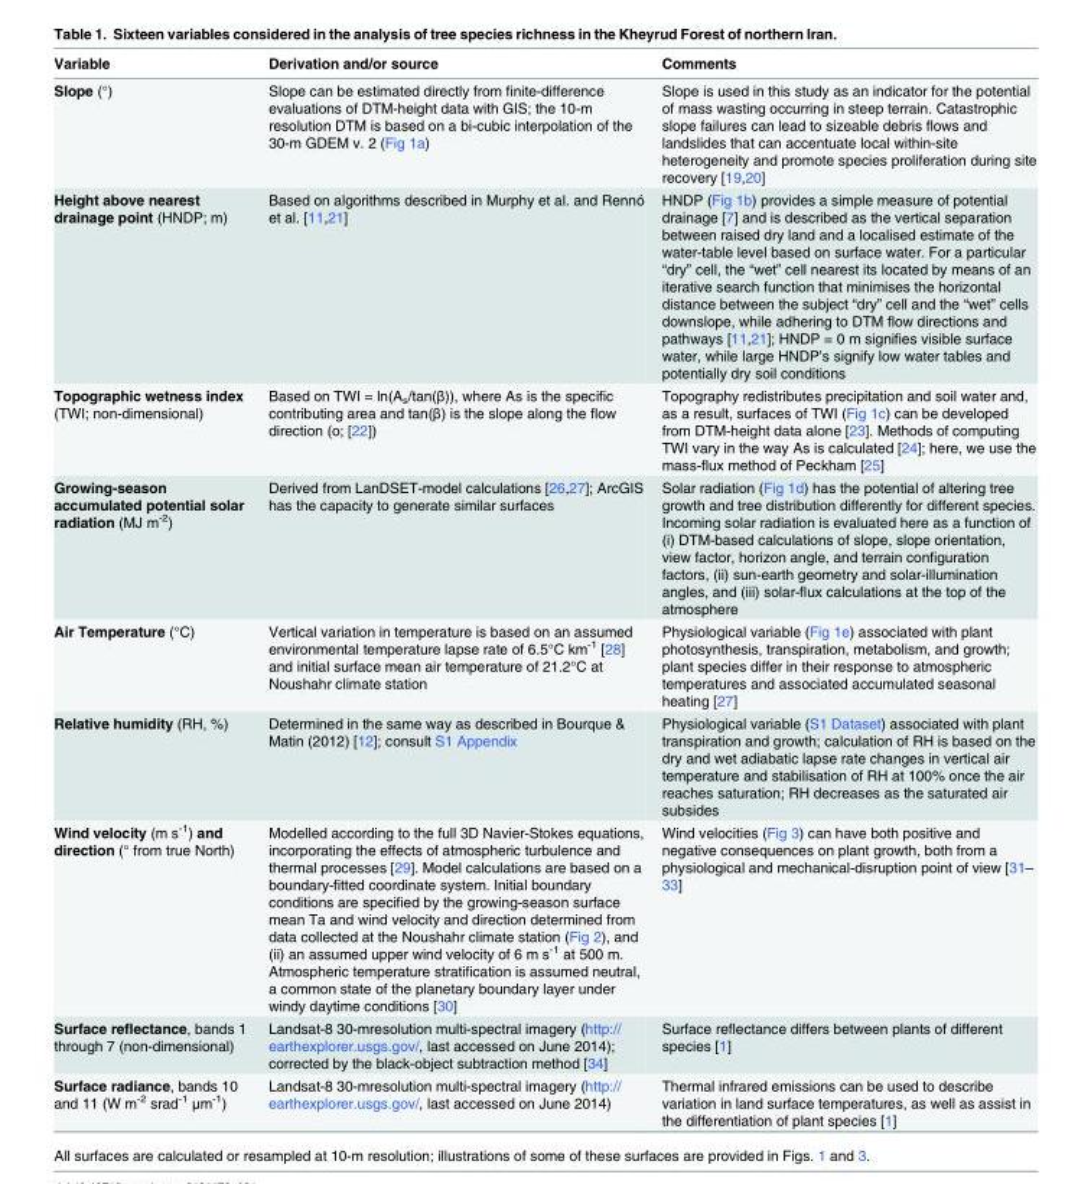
<table><thead><tr><td>Variable</td><td>Derivation and/or source</td><td>Comments</td></tr></thead><tbody><tr><td>Slope (°)</td><td>Slope can be estimated directly from finite-difference evaluations of DTM-height data with GIS; the 10-m resolution DTM is based on a bi-cubic interpolation of the 30-m GDEM v. 2 (Fig 1a)</td><td>Slope is used in this study as an indicator for the potential of mass wasting occurring in steep terrain. Catastrophic slope failures can lead to sizeable debris flows and landslides that can accentuate local within-site heterogeneity and promote species proliferation during site recovery [19,20]</td></tr><tr><td>Height above nearest drainage point (HNDP; m)</td><td>Based on algorithms described in Murphy et al. and Rennó et al. [11,21]</td><td>HNDP (Fig 1b) provides a simple measure of potential drainage [7] and is described as the vertical separation between raised dry land and a localised estimate of the water-table level based on surface water. For a particular “dry” cell, the “wet” cell nearest its located by means of an iterative search function that minimises the horizontal distance between the subject “dry” cell and the “wet” cells downslope, while adhering to DTM flow directions and pathways [11,21]; HNDP = 0 m signifies visible surface water, while large HNDP’s signify low water tables and potentially dry soil conditions</td></tr><tr><td>Topographic wetness index (TWI; non-dimensional)</td><td>Based on TWI = ln(A<sub>s</sub>/tan(β)), where As is the specific contributing area and tan(β) is the slope along the flow direction (o; [22])</td><td>Topography redistributes precipitation and soil water and, as a result, surfaces of TWI (Fig 1c) can be developed from DTM-height data alone [23]. Methods of computing TWI vary in the way As is calculated [24]; here, we use the mass-flux method of Peckham [25]</td></tr><tr><td>Growing-season accumulated potential solar radiation (MJ m<sup>-2</sup>)</td><td>Derived from LanDSET-model calculations [26,27]; ArcGIS has the capacity to generate similar surfaces</td><td>Solar radiation (Fig 1d) has the potential of altering tree growth and tree distribution differently for different species. Incoming solar radiation is evaluated here as a function of (i) DTM-based calculations of slope, slope orientation, view factor, horizon angle, and terrain configuration factors, (ii) sun-earth geometry and solar-illumination angles, and (iii) solar-flux calculations at the top of the atmosphere</td></tr><tr><td>Air Temperature (°C)</td><td>Vertical variation in temperature is based on an assumed environmental temperature lapse rate of 6.5°C km<sup>-1</sup> [28] and initial surface mean air temperature of 21.2°C at Noushahr climate station</td><td>Physiological variable (Fig 1e) associated with plant photosynthesis, transpiration, metabolism, and growth; plant species differ in their response to atmospheric temperatures and associated accumulated seasonal heating [27]</td></tr><tr><td>Relative humidity (RH, %)</td><td>Determined in the same way as described in Bourque &amp; Matin (2012) [12]; consult S1 Appendix</td><td>Physiological variable (S1 Dataset) associated with plant transpiration and growth; calculation of RH is based on the dry and wet adiabatic lapse rate changes in vertical air temperature and stabilisation of RH at 100% once the air reaches saturation; RH decreases as the saturated air subsides</td></tr><tr><td>Wind velocity (m s<sup>-1</sup>) and direction (° from true North)</td><td>Modelled according to the full 3D Navier-Stokes equations, incorporating the effects of atmospheric turbulence and thermal processes [29]. Model calculations are based on a boundary-fitted coordinate system. Initial boundary conditions are specified by the growing-season surface mean Ta and wind velocity and direction determined from data collected at the Noushahr climate station (Fig 2), and (ii) an assumed upper wind velocity of 6 m s<sup>-1</sup> at 500 m. Atmospheric temperature stratification is assumed neutral, a common state of the planetary boundary layer under windy daytime conditions [30]</td><td>Wind velocities (Fig 3) can have both positive and negative consequences on plant growth, both from a physiological and mechanical-disruption point of view [31– 33]</td></tr><tr><td>Surface reflectance, bands 1 through 7 (non-dimensional)</td><td>Landsat-8 30-mresolution multi-spectral imagery (http:// earthexplorer.usgs.gov/, last accessed on June 2014); corrected by the black-object subtraction method [34]</td><td>Surface reflectance differs between plants of different species [1]</td></tr><tr><td>Surface radiance, bands 10 and 11 (W m<sup>-2</sup> srad<sup>-1</sup> μm<sup>-1</sup>)</td><td>Landsat-8 30-mresolution multi-spectral imagery (http:// earthexplorer.usgs.gov/, last accessed on June 2014)</td><td>Thermal infrared emissions can be used to describe variation in land surface temperatures, as well as assist in the differentiation of plant species [1]</td></tr></tbody></table>